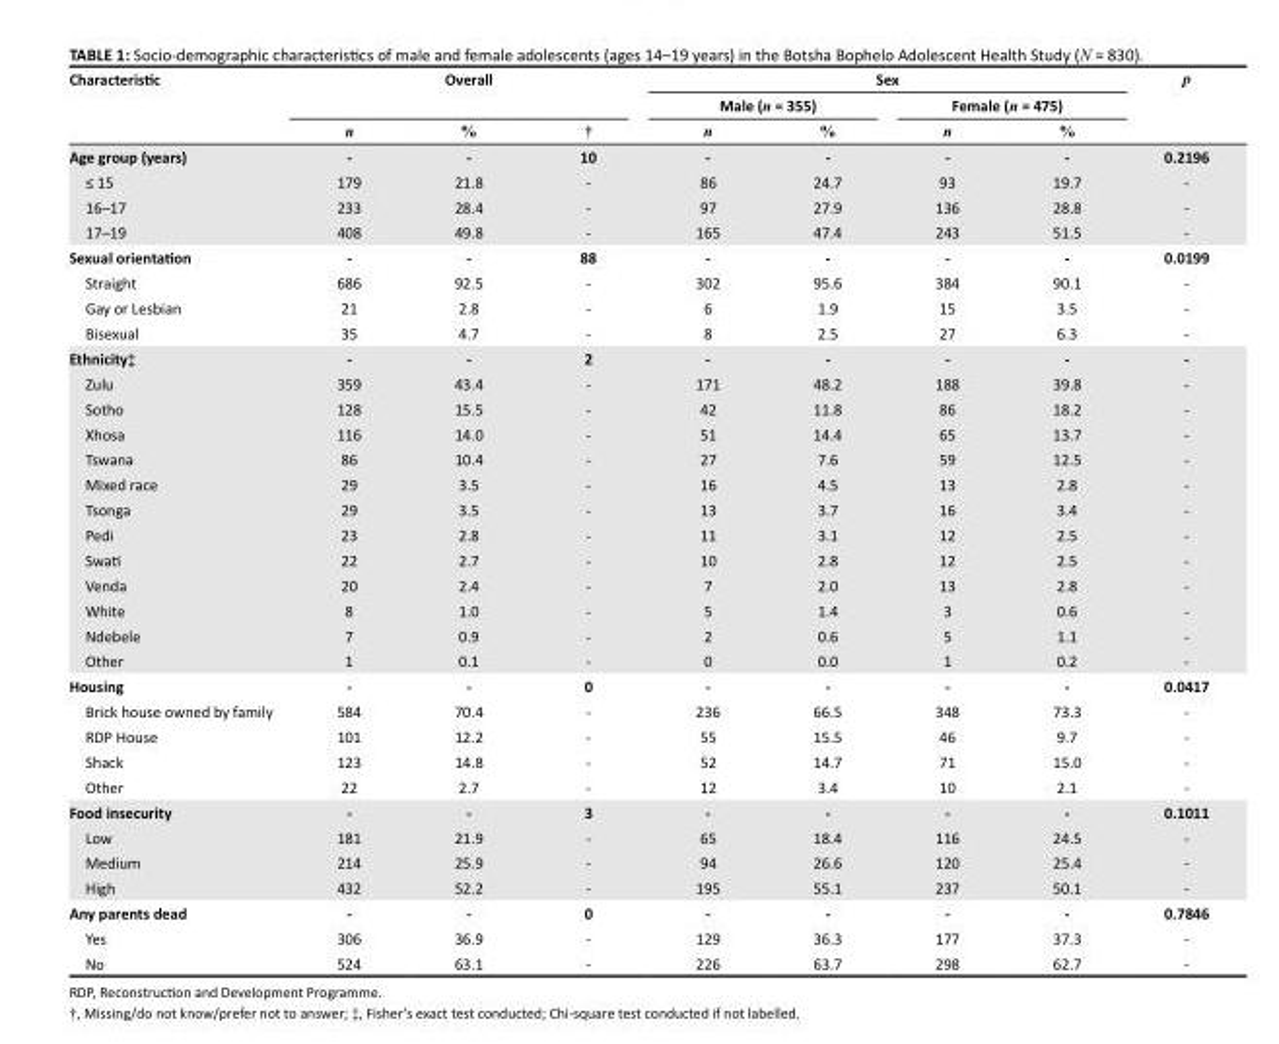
<table><thead><tr><td rowspan="3">Characteristic</td><td rowspan="2" colspan="3">Overall</td><td colspan="4">Sex</td><td rowspan="3">p</td></tr><tr><td colspan="2">Male (n = 355)</td><td colspan="2">Female (n = 475)</td></tr><tr><td>n</td><td>%</td><td>†</td><td>n</td><td>%</td><td>n</td><td>%</td></tr></thead><tbody><tr><td>Age group (years)</td><td>-</td><td>-</td><td>10</td><td>-</td><td>-</td><td>-</td><td>-</td><td>0.2196</td></tr><tr><td>≤ 15</td><td>179</td><td>21.8</td><td>-</td><td>86</td><td>24.7</td><td>93</td><td>19.7</td><td>-</td></tr><tr><td>16–17</td><td>233</td><td>28.4</td><td>-</td><td>97</td><td>27.9</td><td>136</td><td>28.8</td><td>-</td></tr><tr><td>17–19</td><td>408</td><td>49.8</td><td>-</td><td>165</td><td>47.4</td><td>243</td><td>51.5</td><td>-</td></tr><tr><td>Sexual orientation</td><td>-</td><td>-</td><td>88</td><td>-</td><td>-</td><td>-</td><td>-</td><td>0.0199</td></tr><tr><td>Straight</td><td>686</td><td>92.5</td><td>-</td><td>302</td><td>95.6</td><td>384</td><td>90.1</td><td>-</td></tr><tr><td>Gay or Lesbian</td><td>21</td><td>2.8</td><td>-</td><td>6</td><td>1.9</td><td>15</td><td>3.5</td><td>-</td></tr><tr><td>Bisexual</td><td>35</td><td>4.7</td><td>-</td><td>8</td><td>2.5</td><td>27</td><td>6.3</td><td>-</td></tr><tr><td>Ethnicity‡</td><td>-</td><td>-</td><td>2</td><td>-</td><td>-</td><td>-</td><td>-</td><td>-</td></tr><tr><td>Zulu</td><td>359</td><td>43.4</td><td>-</td><td>171</td><td>48.2</td><td>188</td><td>39.8</td><td>-</td></tr><tr><td>Sotho</td><td>128</td><td>15.5</td><td>-</td><td>42</td><td>11.8</td><td>86</td><td>18.2</td><td>-</td></tr><tr><td>Xhosa</td><td>116</td><td>14.0</td><td>-</td><td>51</td><td>14.4</td><td>65</td><td>13.7</td><td>-</td></tr><tr><td>Tswana</td><td>86</td><td>10.4</td><td>-</td><td>27</td><td>7.6</td><td>59</td><td>12.5</td><td>-</td></tr><tr><td>Mixed race</td><td>29</td><td>3.5</td><td>-</td><td>16</td><td>4.5</td><td>13</td><td>2.8</td><td>-</td></tr><tr><td>Tsonga</td><td>29</td><td>3.5</td><td>-</td><td>13</td><td>3.7</td><td>16</td><td>3.4</td><td>-</td></tr><tr><td>Pedi</td><td>23</td><td>2.8</td><td>-</td><td>11</td><td>3.1</td><td>12</td><td>2.5</td><td>-</td></tr><tr><td>Swati</td><td>22</td><td>2.7</td><td>-</td><td>10</td><td>2.8</td><td>12</td><td>2.5</td><td>-</td></tr><tr><td>Venda</td><td>20</td><td>2.4</td><td>-</td><td>7</td><td>2.0</td><td>13</td><td>2.8</td><td>-</td></tr><tr><td>White</td><td>8</td><td>1.0</td><td>-</td><td>5</td><td>1.4</td><td>3</td><td>0.6</td><td>-</td></tr><tr><td>Ndebele</td><td>7</td><td>0.9</td><td>-</td><td>2</td><td>0.6</td><td>5</td><td>1.1</td><td>-</td></tr><tr><td>Other</td><td>1</td><td>0.1</td><td>-</td><td>0</td><td>0.0</td><td>1</td><td>0.2</td><td>-</td></tr><tr><td>Housing</td><td>-</td><td>-</td><td>0</td><td>-</td><td>-</td><td>-</td><td>-</td><td>0.0417</td></tr><tr><td>Brick house owned by family</td><td>584</td><td>70.4</td><td>-</td><td>236</td><td>66.5</td><td>348</td><td>73.3</td><td>-</td></tr><tr><td>RDP House</td><td>101</td><td>12.2</td><td>-</td><td>55</td><td>15.5</td><td>46</td><td>9.7</td><td>-</td></tr><tr><td>Shack</td><td>123</td><td>14.8</td><td>-</td><td>52</td><td>14.7</td><td>71</td><td>15.0</td><td>-</td></tr><tr><td>Other</td><td>22</td><td>2.7</td><td>-</td><td>12</td><td>3.4</td><td>10</td><td>2.1</td><td>-</td></tr><tr><td>Food insecurity</td><td>-</td><td>-</td><td>3</td><td>-</td><td>-</td><td>-</td><td>-</td><td>0.1011</td></tr><tr><td>Low</td><td>181</td><td>21.9</td><td>-</td><td>65</td><td>18.4</td><td>116</td><td>24.5</td><td>-</td></tr><tr><td>Medium</td><td>214</td><td>25.9</td><td>-</td><td>94</td><td>26.6</td><td>120</td><td>25.4</td><td>-</td></tr><tr><td>High</td><td>432</td><td>52.2</td><td>-</td><td>195</td><td>55.1</td><td>237</td><td>50.1</td><td>-</td></tr><tr><td>Any parents dead</td><td>-</td><td>-</td><td>0</td><td>-</td><td>-</td><td>-</td><td>-</td><td>0.7846</td></tr><tr><td>Yes</td><td>306</td><td>36.9</td><td>-</td><td>129</td><td>36.3</td><td>177</td><td>37.3</td><td>-</td></tr><tr><td>No</td><td>524</td><td>63.1</td><td>-</td><td>226</td><td>63.7</td><td>298</td><td>62.7</td><td>-</td></tr></tbody></table>